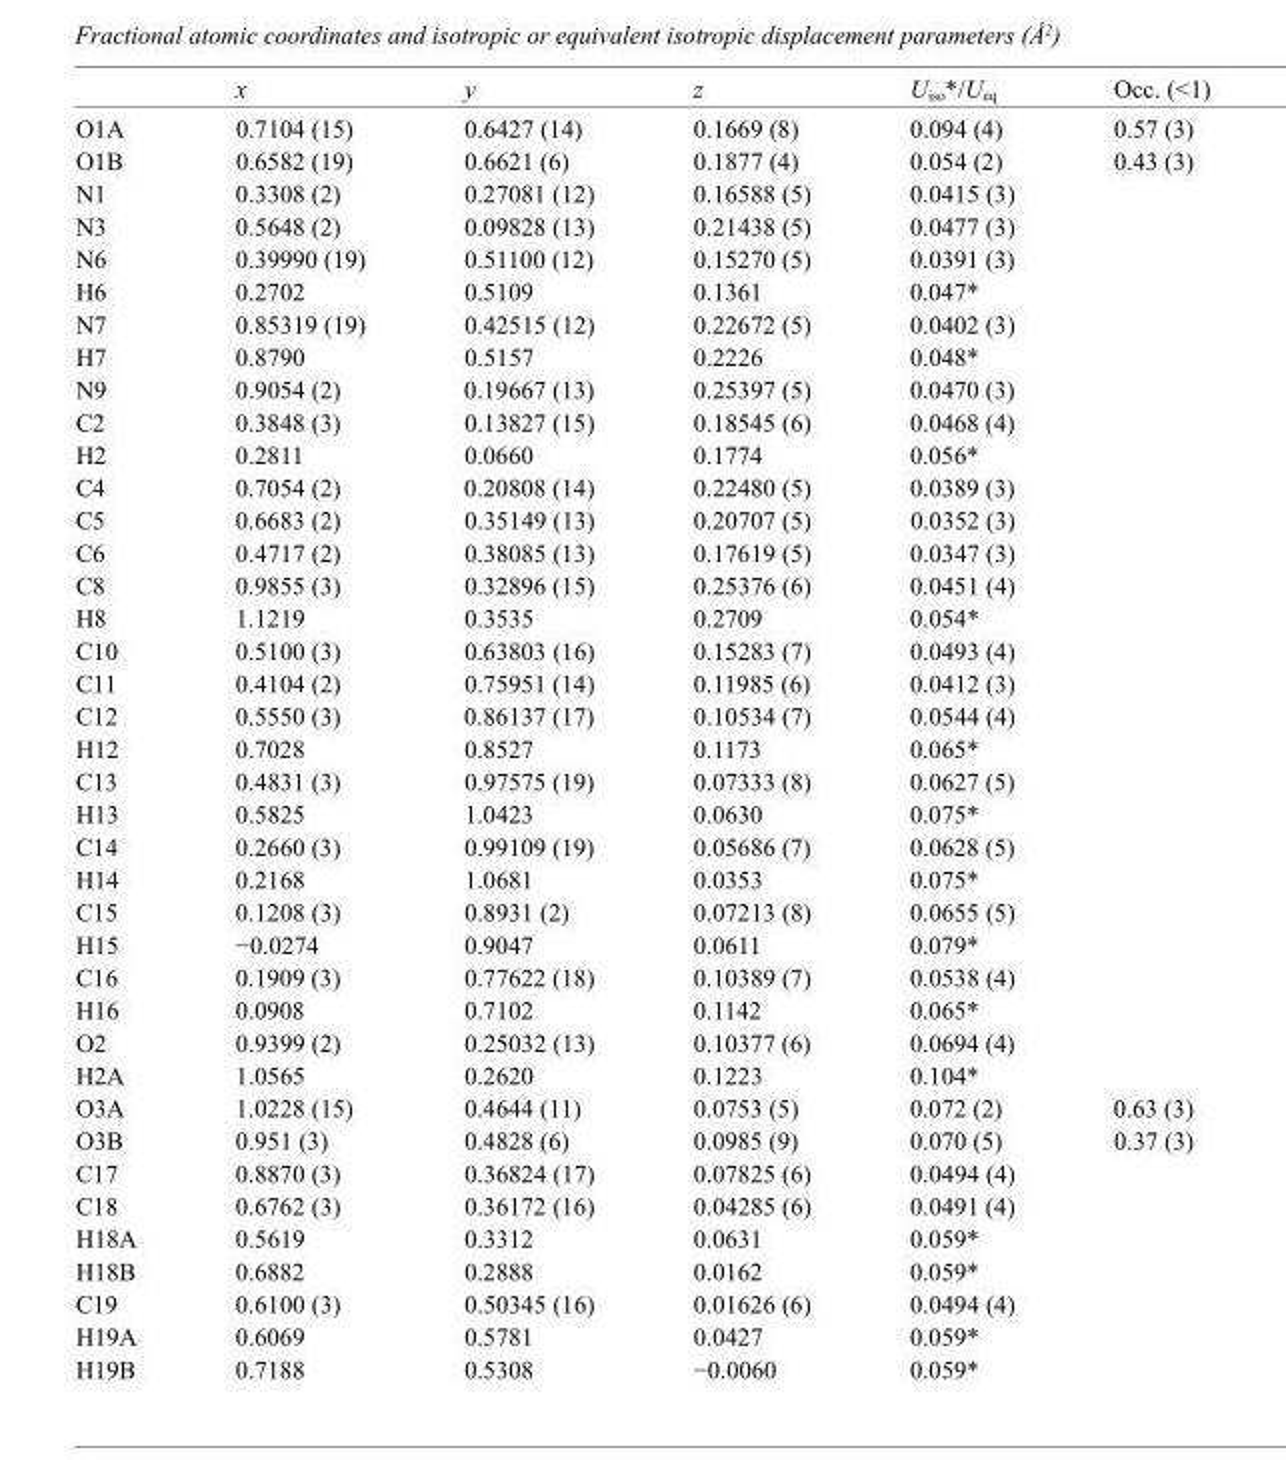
<table><thead><tr><td></td><td>x</td><td>y</td><td>z</td><td>U<sub>iso</sub>*/U<sub>eq</sub></td><td>Occ. (&lt;1)</td></tr></thead><tbody><tr><td>O1A</td><td>0.7104 (15)</td><td>0.6427 (14)</td><td>0.1669 (8)</td><td>0.094 (4)</td><td>0.57 (3)</td></tr><tr><td>O1B</td><td>0.6582 (19)</td><td>0.6621 (6)</td><td>0.1877 (4)</td><td>0.054 (2)</td><td>0.43 (3)</td></tr><tr><td>N1</td><td>0.3308 (2)</td><td>0.27081 (12)</td><td>0.16588 (5)</td><td>0.0415 (3)</td><td></td></tr><tr><td>N3</td><td>0.5648 (2)</td><td>0.09828 (13)</td><td>0.21438 (5)</td><td>0.0477 (3)</td><td></td></tr><tr><td>N6</td><td>0.39990 (19)</td><td>0.51100 (12)</td><td>0.15270 (5)</td><td>0.0391 (3)</td><td></td></tr><tr><td>H6</td><td>0.2702</td><td>0.5109</td><td>0.1361</td><td>0.047*</td><td></td></tr><tr><td>N7</td><td>0.85319 (19)</td><td>0.42515 (12)</td><td>0.22672 (5)</td><td>0.0402 (3)</td><td></td></tr><tr><td>H7</td><td>0.8790</td><td>0.5157</td><td>0.2226</td><td>0.048*</td><td></td></tr><tr><td>N9</td><td>0.9054 (2)</td><td>0.19667 (13)</td><td>0.25397 (5)</td><td>0.0470 (3)</td><td></td></tr><tr><td>C2</td><td>0.3848 (3)</td><td>0.13827 (15)</td><td>0.18545 (6)</td><td>0.0468 (4)</td><td></td></tr><tr><td>H2</td><td>0.2811</td><td>0.0660</td><td>0.1774</td><td>0.056*</td><td></td></tr><tr><td>C4</td><td>0.7054 (2)</td><td>0.20808 (14)</td><td>0.22480 (5)</td><td>0.0389 (3)</td><td></td></tr><tr><td>C5</td><td>0.6683 (2)</td><td>0.35149 (13)</td><td>0.20707 (5)</td><td>0.0352 (3)</td><td></td></tr><tr><td>C6</td><td>0.4717 (2)</td><td>0.38085 (13)</td><td>0.17619 (5)</td><td>0.0347 (3)</td><td></td></tr><tr><td>C8</td><td>0.9855 (3)</td><td>0.32896 (15)</td><td>0.25376 (6)</td><td>0.0451 (4)</td><td></td></tr><tr><td>H8</td><td>1.1219</td><td>0.3535</td><td>0.2709</td><td>0.054*</td><td></td></tr><tr><td>C10</td><td>0.5100 (3)</td><td>0.63803 (16)</td><td>0.15283 (7)</td><td>0.0493 (4)</td><td></td></tr><tr><td>C11</td><td>0.4104 (2)</td><td>0.75951 (14)</td><td>0.11985 (6)</td><td>0.0412 (3)</td><td></td></tr><tr><td>C12</td><td>0.5550 (3)</td><td>0.86137 (17)</td><td>0.10534 (7)</td><td>0.0544 (4)</td><td></td></tr><tr><td>H12</td><td>0.7028</td><td>0.8527</td><td>0.1173</td><td>0.065*</td><td></td></tr><tr><td>C13</td><td>0.4831 (3)</td><td>0.97575 (19)</td><td>0.07333 (8)</td><td>0.0627 (5)</td><td></td></tr><tr><td>H13</td><td>0.5825</td><td>1.0423</td><td>0.0630</td><td>0.075*</td><td></td></tr><tr><td>C14</td><td>0.2660 (3)</td><td>0.99109 (19)</td><td>0.05686 (7)</td><td>0.0628 (5)</td><td></td></tr><tr><td>H14</td><td>0.2168</td><td>1.0681</td><td>0.0353</td><td>0.075*</td><td></td></tr><tr><td>C15</td><td>0.1208 (3)</td><td>0.8931 (2)</td><td>0.07213 (8)</td><td>0.0655 (5)</td><td></td></tr><tr><td>H15</td><td>−0.0274</td><td>0.9047</td><td>0.0611</td><td>0.079*</td><td></td></tr><tr><td>C16</td><td>0.1909 (3)</td><td>0.77622 (18)</td><td>0.10389 (7)</td><td>0.0538 (4)</td><td></td></tr><tr><td>H16</td><td>0.0908</td><td>0.7102</td><td>0.1142</td><td>0.065*</td><td></td></tr><tr><td>O2</td><td>0.9399 (2)</td><td>0.25032 (13)</td><td>0.10377 (6)</td><td>0.0694 (4)</td><td></td></tr><tr><td>H2A</td><td>1.0565</td><td>0.2620</td><td>0.1223</td><td>0.104*</td><td></td></tr><tr><td>O3A</td><td>1.0228 (15)</td><td>0.4644 (11)</td><td>0.0753 (5)</td><td>0.072 (2)</td><td>0.63 (3)</td></tr><tr><td>O3B</td><td>0.951 (3)</td><td>0.4828 (6)</td><td>0.0985 (9)</td><td>0.070 (5)</td><td>0.37 (3)</td></tr><tr><td>C17</td><td>0.8870 (3)</td><td>0.36824 (17)</td><td>0.07825 (6)</td><td>0.0494 (4)</td><td></td></tr><tr><td>C18</td><td>0.6762 (3)</td><td>0.36172 (16)</td><td>0.04285 (6)</td><td>0.0491 (4)</td><td></td></tr><tr><td>H18A</td><td>0.5619</td><td>0.3312</td><td>0.0631</td><td>0.059*</td><td></td></tr><tr><td>H18B</td><td>0.6882</td><td>0.2888</td><td>0.0162</td><td>0.059*</td><td></td></tr><tr><td>C19</td><td>0.6100 (3)</td><td>0.50345 (16)</td><td>0.01626 (6)</td><td>0.0494 (4)</td><td></td></tr><tr><td>H19A</td><td>0.6069</td><td>0.5781</td><td>0.0427</td><td>0.059*</td><td></td></tr><tr><td>H19B</td><td>0.7188</td><td>0.5308</td><td>−0.0060</td><td>0.059*</td><td></td></tr></tbody></table>